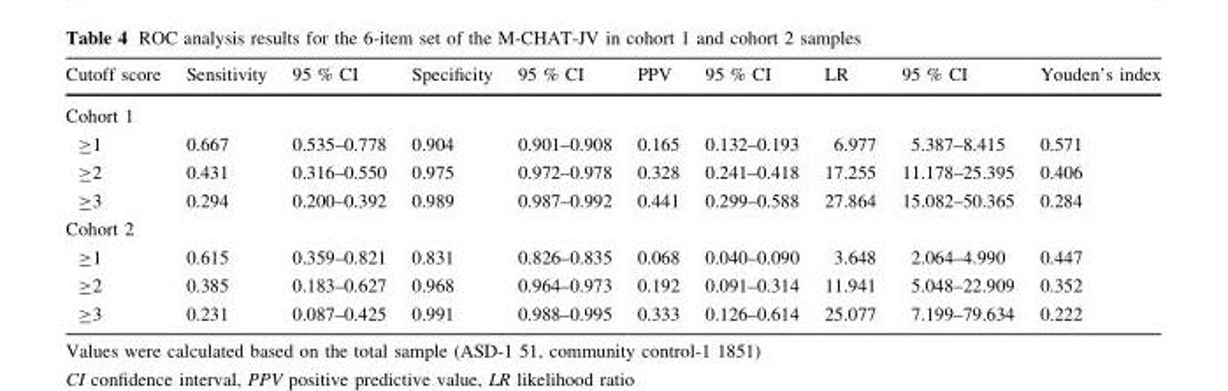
<table><thead><tr><td>Cutoff score</td><td>Sensitivity</td><td>95 % CI</td><td>Specificity</td><td>95 % CI</td><td>PPV</td><td>95 % CI</td><td>LR</td><td>95 % CI</td><td>Youden’s index</td></tr></thead><tbody><tr><td colspan="10">Cohort 1</td></tr><tr><td>≥1</td><td>0.667</td><td>0.535–0.778</td><td>0.904</td><td>0.901–0.908</td><td>0.165</td><td>0.132–0.193</td><td>6.977</td><td>5.387–8.415</td><td>0.571</td></tr><tr><td>≥2</td><td>0.431</td><td>0.316–0.550</td><td>0.975</td><td>0.972–0.978</td><td>0.328</td><td>0.241–0.418</td><td>17.255</td><td>11.178–25.395</td><td>0.406</td></tr><tr><td>≥3</td><td>0.294</td><td>0.200–0.392</td><td>0.989</td><td>0.987–0.992</td><td>0.441</td><td>0.299–0.588</td><td>27.864</td><td>15.082–50.365</td><td>0.284</td></tr><tr><td colspan="10">Cohort 2</td></tr><tr><td>≥1</td><td>0.615</td><td>0.359–0.821</td><td>0.831</td><td>0.826–0.835</td><td>0.068</td><td>0.040–0.090</td><td>3.648</td><td>2.064–4.990</td><td>0.447</td></tr><tr><td>≥2</td><td>0.385</td><td>0.183–0.627</td><td>0.968</td><td>0.964–0.973</td><td>0.192</td><td>0.091–0.314</td><td>11.941</td><td>5.048–22.909</td><td>0.352</td></tr><tr><td>≥3</td><td>0.231</td><td>0.087–0.425</td><td>0.991</td><td>0.988–0.995</td><td>0.333</td><td>0.126–0.614</td><td>25.077</td><td>7.199–79.634</td><td>0.222</td></tr></tbody></table>